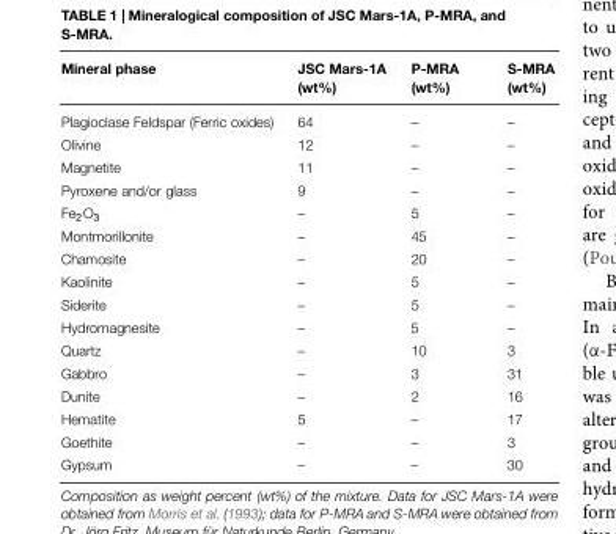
<table><thead><tr><td>Mineral phase</td><td>JSC Mars-1A (wt%)</td><td>P-MRA (wt%)</td><td>S-MRA (wt%)</td></tr></thead><tbody><tr><td>Plagioclase Feldspar (Ferric oxides)</td><td>64</td><td>–</td><td>–</td></tr><tr><td>Olivine</td><td>12</td><td>–</td><td>–</td></tr><tr><td>Magnetite</td><td>11</td><td>–</td><td>–</td></tr><tr><td>Pyroxene and/or glass</td><td>9</td><td>–</td><td>–</td></tr><tr><td>Fe<sub>2</sub>O<sub>3</sub></td><td>–</td><td>5</td><td>–</td></tr><tr><td>Montmorillonite</td><td>–</td><td>45</td><td>–</td></tr><tr><td>Chamosite</td><td>–</td><td>20</td><td>–</td></tr><tr><td>Kaolinite</td><td>–</td><td>5</td><td>–</td></tr><tr><td>Siderite</td><td>–</td><td>5</td><td>–</td></tr><tr><td>Hydromagnesite</td><td>–</td><td>5</td><td>–</td></tr><tr><td>Quartz</td><td>–</td><td>10</td><td>3</td></tr><tr><td>Gabbro</td><td>–</td><td>3</td><td>31</td></tr><tr><td>Dunite</td><td>–</td><td>2</td><td>16</td></tr><tr><td>Hematite</td><td>5</td><td>–</td><td>17</td></tr><tr><td>Goethite</td><td>–</td><td>–</td><td>3</td></tr><tr><td>Gypsum</td><td>–</td><td>–</td><td>30</td></tr></tbody></table>